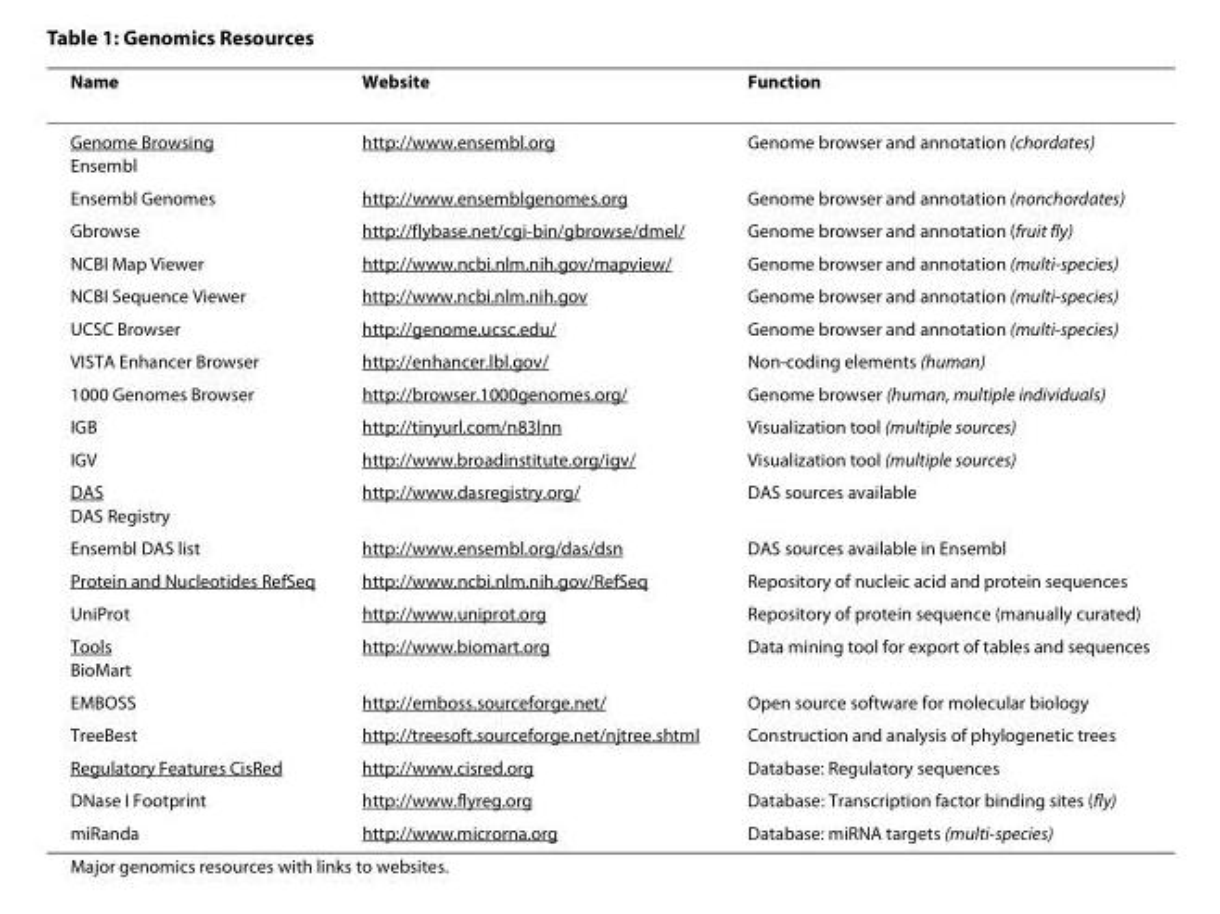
<table><thead><tr><td>Name</td><td>Website</td><td>Function</td></tr></thead><tbody><tr><td>Genome Browsing Ensembl</td><td>http://www.ensembl.org</td><td>Genome browser and annotation (chordates)</td></tr><tr><td>Ensembl Genomes</td><td>http://www.ensemblgenomes.org</td><td>Genome browser and annotation (nonchordates)</td></tr><tr><td>Gbrowse</td><td>http://flybase.net/cgi-bin/gbrowse/dmel/</td><td>Genome browser and annotation (fruit fly)</td></tr><tr><td>NCBI Map Viewer</td><td>http://www.ncbi.nlm.nih.gov/mapview/</td><td>Genome browser and annotation (multi-species)</td></tr><tr><td>NCBI Sequence Viewer</td><td>http://www.ncbi.nlm.nih.gov</td><td>Genome browser and annotation (multi-species)</td></tr><tr><td>UCSC Browser</td><td>http://genome.ucsc.edu/</td><td>Genome browser and annotation (multi-species)</td></tr><tr><td>VISTA Enhancer Browser</td><td>http://enhancer.lbl.gov/</td><td>Non-coding elements (human)</td></tr><tr><td>1000 Genomes Browser</td><td>http://browser.1000genomes.org/</td><td>Genome browser (human, multiple individuals)</td></tr><tr><td>IGB</td><td>http://tinyurl.com/n83lnn</td><td>Visualization tool (multiple sources)</td></tr><tr><td>IGV</td><td>http://www.broadinstitute.org/igv/</td><td>Visualization tool (multiple sources)</td></tr><tr><td>DAS DAS Registry</td><td>http://www.dasregistry.org/</td><td>DAS sources available</td></tr><tr><td>Ensembl DAS list</td><td>http://www.ensembl.org/das/dsn</td><td>DAS sources available in Ensembl</td></tr><tr><td>Protein and Nucleotides RefSeq</td><td>http://www.ncbi.nlm.nih.gov/RefSeq</td><td>Repository of nucleic acid and protein sequences</td></tr><tr><td>UniProt</td><td>http://www.uniprot.org</td><td>Repository of protein sequence (manually curated)</td></tr><tr><td>Tools BioMart</td><td>http://www.biomart.org</td><td>Data mining tool for export of tables and sequences</td></tr><tr><td>EMBOSS</td><td>http://emboss.sourceforge.net/</td><td>Open source software for molecular biology</td></tr><tr><td>TreeBest</td><td>http://treesoft.sourceforge.net/njtree.shtml</td><td>Construction and analysis of phylogenetic trees</td></tr><tr><td>Regulatory Features CisRed</td><td>http://www.cisred.org</td><td>Database: Regulatory sequences</td></tr><tr><td>DNase I Footprint</td><td>http://www.flyreg.org</td><td>Database: Transcription factor binding sites (fly)</td></tr><tr><td>miRanda</td><td>http://www.microrna.org</td><td>Database: miRNA targets (multi-species)</td></tr></tbody></table>